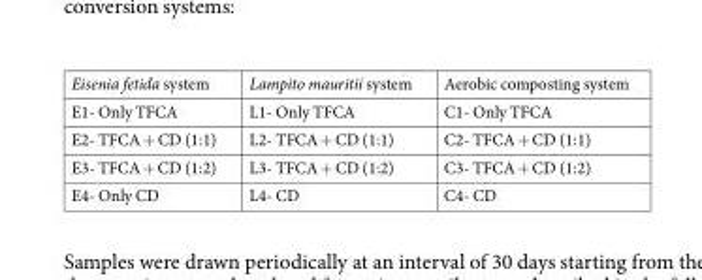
<table><tbody><tr><td>Eisenia fetida system</td><td>Lampito mauritii system</td><td>Aerobic composting system</td></tr><tr><td>E1- Only TFCA</td><td>L1- Only TFCA</td><td>C1- Only TFCA</td></tr><tr><td>E2- TFCA + CD (1:1)</td><td>L2- TFCA + CD (1:1)</td><td>C2- TFCA + CD (1:1)</td></tr><tr><td>E3- TFCA + CD (1:2)</td><td>L3- TFCA + CD (1:2)</td><td>C3- TFCA + CD (1:2)</td></tr><tr><td>E4- Only CD</td><td>L4- CD</td><td>C4- CD</td></tr></tbody></table>